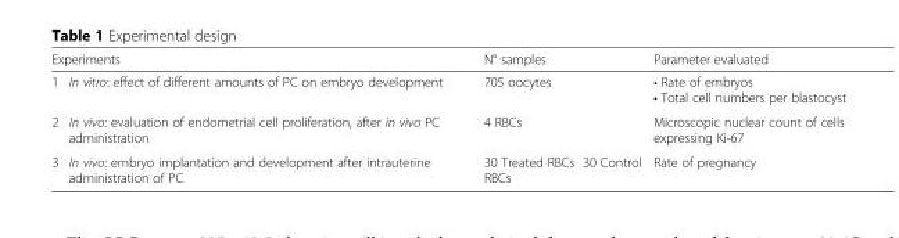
<table><thead><tr><td colspan="2">Experiments</td><td rowspan="2">N° samples 705 oocytes</td><td rowspan="2">Parameter evaluated • Rate of embryos • Total cell numbers per blastocyst</td></tr><tr><td>1</td><td>In vitro: effect of different amounts of PC on embryo development</td></tr></thead><tbody><tr><td>2</td><td>In vivo: evaluation of endometrial cell proliferation, after in vivo PC administration</td><td>4 RBCs</td><td>Microscopic nuclear count of cells expressing Ki-67</td></tr><tr><td>3</td><td>In vivo: embryo implantation and development after intrauterine administration of PC</td><td>30 Treated RBCs 30 Control RBCs</td><td>Rate of pregnancy</td></tr></tbody></table>